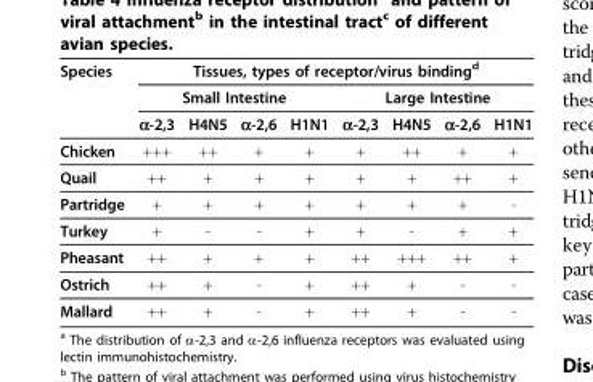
<table><thead><tr><td rowspan="3">Species</td><td colspan="8">Tissues, types of receptor/virus binding<sup>d</sup></td></tr><tr><td colspan="4">Small Intestine</td><td colspan="4">Large Intestine</td></tr><tr><td>α-2,3</td><td>H4N5</td><td>α-2,6</td><td>H1N1</td><td>α-2,3</td><td>H4N5</td><td>α-2,6</td><td>H1N1</td></tr></thead><tbody><tr><td>Chicken</td><td>+++</td><td>++</td><td>+</td><td>+</td><td>+</td><td>++</td><td>+</td><td>+</td></tr><tr><td>Quail</td><td>++</td><td>+</td><td>+</td><td>+</td><td>+</td><td>+</td><td>++</td><td>+</td></tr><tr><td>Partridge</td><td>+</td><td>+</td><td>+</td><td>+</td><td>+</td><td>+</td><td>+</td><td>-</td></tr><tr><td>Turkey</td><td>+</td><td>-</td><td>-</td><td>+</td><td>+</td><td>-</td><td>+</td><td>+</td></tr><tr><td>Pheasant</td><td>++</td><td>+</td><td>+</td><td>+</td><td>++</td><td>+++</td><td>++</td><td>+</td></tr><tr><td>Ostrich</td><td>++</td><td>+</td><td>-</td><td>+</td><td>++</td><td>+</td><td>-</td><td>-</td></tr><tr><td>Mallard</td><td>++</td><td>+</td><td>-</td><td>+</td><td>++</td><td>+</td><td>-</td><td>-</td></tr></tbody></table>